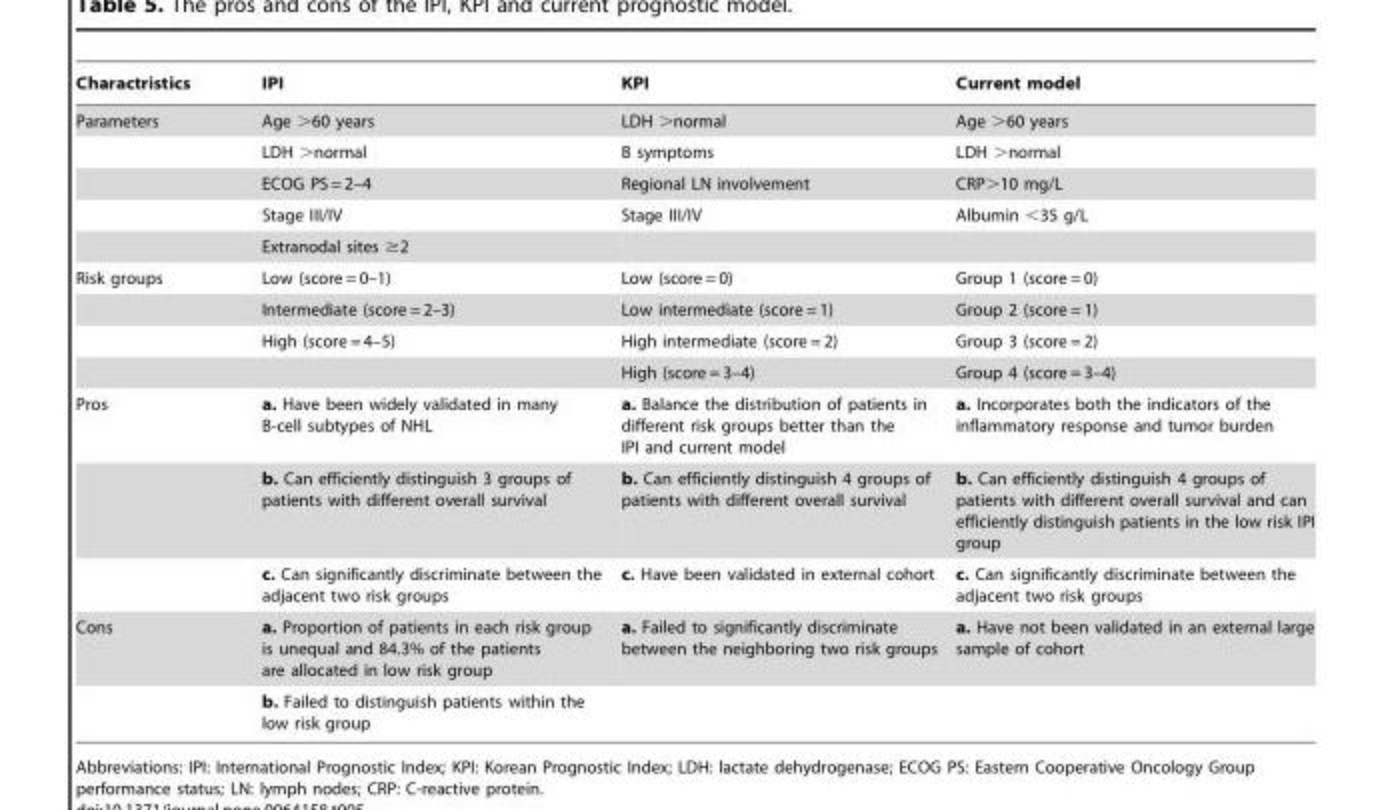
<table><thead><tr><td>Charactristics</td><td>IPI</td><td>KPI</td><td>Current model</td></tr></thead><tbody><tr><td rowspan="5">Parameters</td><td>Age &gt;60 years</td><td>LDH &gt;normal</td><td>Age &gt;60 years</td></tr><tr><td>LDH &gt;normal</td><td>B symptoms</td><td>LDH &gt;normal</td></tr><tr><td>ECOG PS = 2–4</td><td>Regional LN involvement</td><td>CRP&gt;10 mg/L</td></tr><tr><td>Stage III/IV</td><td>Stage III/IV</td><td>Albumin &lt;35 g/L</td></tr><tr><td>Extranodal sites ≥2</td><td></td><td></td></tr><tr><td rowspan="4">Risk groups</td><td>Low (score = 0–1)</td><td>Low (score = 0)</td><td>Group 1 (score = 0)</td></tr><tr><td>Intermediate (score = 2–3)</td><td>Low intermediate (score = 1)</td><td>Group 2 (score = 1)</td></tr><tr><td>High (score = 4–5)</td><td>High intermediate (score = 2)</td><td>Group 3 (score = 2)</td></tr><tr><td></td><td>High (score = 3–4)</td><td>Group 4 (score = 3–4)</td></tr><tr><td rowspan="3">Pros</td><td>a. Have been widely validated in many B-cell subtypes of NHL</td><td>a. Balance the distribution of patients in different risk groups better than the IPI and current model</td><td>a. Incorporates both the indicators of the inflammatory response and tumor burden</td></tr><tr><td>b. Can efficiently distinguish 3 groups of patients with different overall survival</td><td>b. Can efficiently distinguish 4 groups of patients with different overall survival</td><td>b. Can efficiently distinguish 4 groups of patients with different overall survival and can efficiently distinguish patients in the low risk IPI group</td></tr><tr><td>c. Can significantly discriminate between the adjacent two risk groups</td><td>c. Have been validated in external cohort</td><td>c. Can significantly discriminate between the adjacent two risk groups</td></tr><tr><td rowspan="2">Cons</td><td>a. Proportion of patients in each risk group is unequal and 84.3% of the patients are allocated in low risk group</td><td>a. Failed to significantly discriminate between the neighboring two risk groups</td><td>a. Have not been validated in an external large sample of cohort</td></tr><tr><td>b. Failed to distinguish patients within the low risk group</td><td></td><td></td></tr></tbody></table>